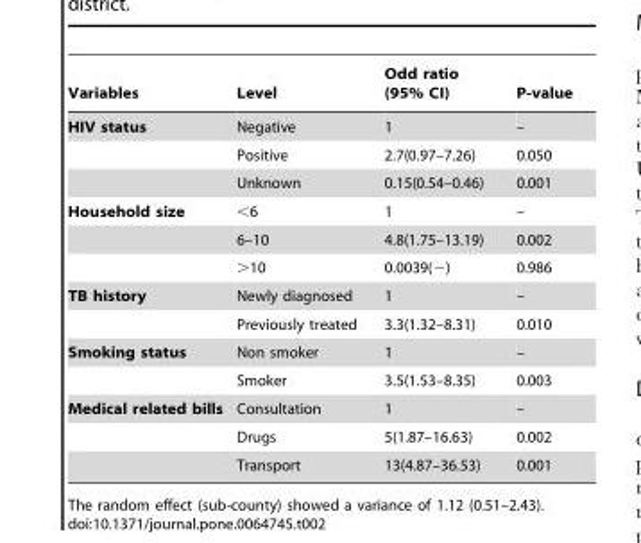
<table><thead><tr><td>Variables</td><td>Level</td><td>Odd ratio (95% CI)</td><td>P-value</td></tr></thead><tbody><tr><td rowspan="3">HIV status</td><td>Negative</td><td>1</td><td>–</td></tr><tr><td>Positive</td><td>2.7(0.97–7.26)</td><td>0.050</td></tr><tr><td>Unknown</td><td>0.15(0.54–0.46)</td><td>0.001</td></tr><tr><td rowspan="3">Household size</td><td>&lt;6</td><td>1</td><td>–</td></tr><tr><td>6–10</td><td>4.8(1.75–13.19)</td><td>0.002</td></tr><tr><td>&gt;10</td><td>0.0039(−)</td><td>0.986</td></tr><tr><td rowspan="2">TB history</td><td>Newly diagnosed</td><td>1</td><td>–</td></tr><tr><td>Previously treated</td><td>3.3(1.32–8.31)</td><td>0.010</td></tr><tr><td rowspan="2">Smoking status</td><td>Non smoker</td><td>1</td><td>–</td></tr><tr><td>Smoker</td><td>3.5(1.53–8.35)</td><td>0.003</td></tr><tr><td rowspan="3">Medical related bills</td><td>Consultation</td><td>1</td><td>–</td></tr><tr><td>Drugs</td><td>5(1.87–16.63)</td><td>0.002</td></tr><tr><td>Transport</td><td>13(4.87–36.53)</td><td>0.001</td></tr></tbody></table>